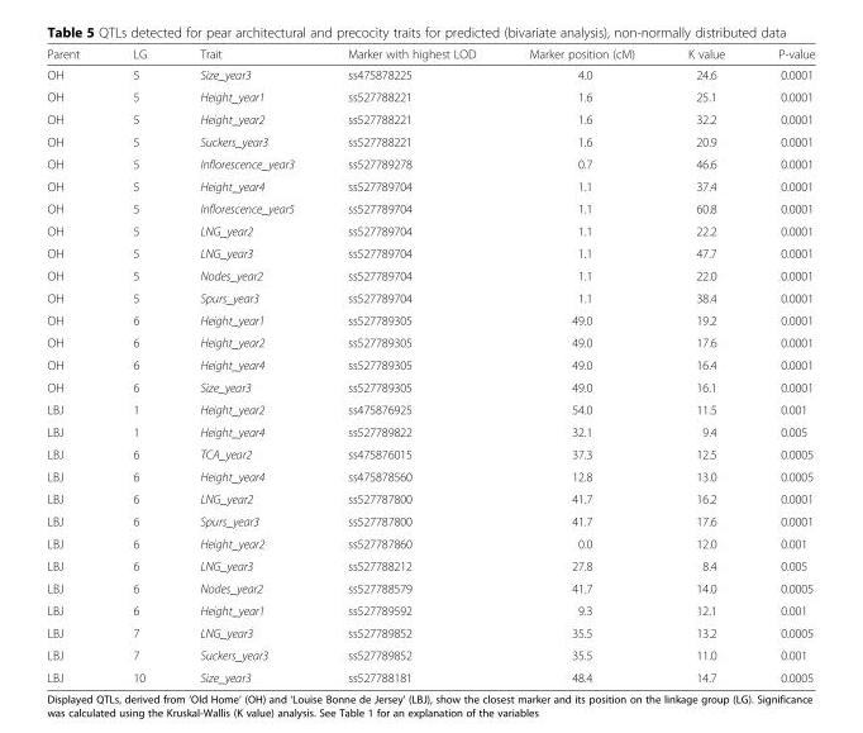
<table><thead><tr><td>Parent</td><td>LG</td><td>Trait</td><td>Marker with highest LOD</td><td>Marker position (cM)</td><td>K value</td><td>P-value</td></tr></thead><tbody><tr><td>OH</td><td>5</td><td>Size_year3</td><td>ss475878225</td><td>4.0</td><td>24.6</td><td>0.0001</td></tr><tr><td>OH</td><td>5</td><td>Height_year1</td><td>ss527788221</td><td>1.6</td><td>25.1</td><td>0.0001</td></tr><tr><td>OH</td><td>5</td><td>Height_year2</td><td>ss527788221</td><td>1.6</td><td>32.2</td><td>0.0001</td></tr><tr><td>OH</td><td>5</td><td>Suckers_year3</td><td>ss527788221</td><td>1.6</td><td>20.9</td><td>0.0001</td></tr><tr><td>OH</td><td>5</td><td>Inflorescence_year3</td><td>ss527789278</td><td>0.7</td><td>46.6</td><td>0.0001</td></tr><tr><td>OH</td><td>5</td><td>Height_year4</td><td>ss527789704</td><td>1.1</td><td>37.4</td><td>0.0001</td></tr><tr><td>OH</td><td>5</td><td>Inflorescence_year5</td><td>ss527789704</td><td>1.1</td><td>60.8</td><td>0.0001</td></tr><tr><td>OH</td><td>5</td><td>LNG_year2</td><td>ss527789704</td><td>1.1</td><td>22.2</td><td>0.0001</td></tr><tr><td>OH</td><td>5</td><td>LNG_year3</td><td>ss527789704</td><td>1.1</td><td>47.7</td><td>0.0001</td></tr><tr><td>OH</td><td>5</td><td>Nodes_year2</td><td>ss527789704</td><td>1.1</td><td>22.0</td><td>0.0001</td></tr><tr><td>OH</td><td>5</td><td>Spurs_year3</td><td>ss527789704</td><td>1.1</td><td>38.4</td><td>0.0001</td></tr><tr><td>OH</td><td>6</td><td>Height_year1</td><td>ss527789305</td><td>49.0</td><td>19.2</td><td>0.0001</td></tr><tr><td>OH</td><td>6</td><td>Height_year2</td><td>ss527789305</td><td>49.0</td><td>17.6</td><td>0.0001</td></tr><tr><td>OH</td><td>6</td><td>Height_year4</td><td>ss527789305</td><td>49.0</td><td>16.4</td><td>0.0001</td></tr><tr><td>OH</td><td>6</td><td>Size_year3</td><td>ss527789305</td><td>49.0</td><td>16.1</td><td>0.0001</td></tr><tr><td>LBJ</td><td>1</td><td>Height_year2</td><td>ss475876925</td><td>54.0</td><td>11.5</td><td>0.001</td></tr><tr><td>LBJ</td><td>1</td><td>Height_year4</td><td>ss527789822</td><td>32.1</td><td>9.4</td><td>0.005</td></tr><tr><td>LBJ</td><td>6</td><td>TCA_year2</td><td>ss475876015</td><td>37.3</td><td>12.5</td><td>0.0005</td></tr><tr><td>LBJ</td><td>6</td><td>Height_year4</td><td>ss475878560</td><td>12.8</td><td>13.0</td><td>0.0005</td></tr><tr><td>LBJ</td><td>6</td><td>LNG_year2</td><td>ss527787800</td><td>41.7</td><td>16.2</td><td>0.0001</td></tr><tr><td>LBJ</td><td>6</td><td>Spurs_year3</td><td>ss527787800</td><td>41.7</td><td>17.6</td><td>0.0001</td></tr><tr><td>LBJ</td><td>6</td><td>Height_year2</td><td>ss527787860</td><td>0.0</td><td>12.0</td><td>0.001</td></tr><tr><td>LBJ</td><td>6</td><td>LNG_year3</td><td>ss527788212</td><td>27.8</td><td>8.4</td><td>0.005</td></tr><tr><td>LBJ</td><td>6</td><td>Nodes_year2</td><td>ss527788579</td><td>41.7</td><td>14.0</td><td>0.0005</td></tr><tr><td>LBJ</td><td>6</td><td>Height_year1</td><td>ss527789592</td><td>9.3</td><td>12.1</td><td>0.001</td></tr><tr><td>LBJ</td><td>7</td><td>LNG_year3</td><td>ss527789852</td><td>35.5</td><td>13.2</td><td>0.0005</td></tr><tr><td>LBJ</td><td>7</td><td>Suckers_year3</td><td>ss527789852</td><td>35.5</td><td>11.0</td><td>0.001</td></tr><tr><td>LBJ</td><td>10</td><td>Size_year3</td><td>ss527788181</td><td>48.4</td><td>14.7</td><td>0.0005</td></tr></tbody></table>